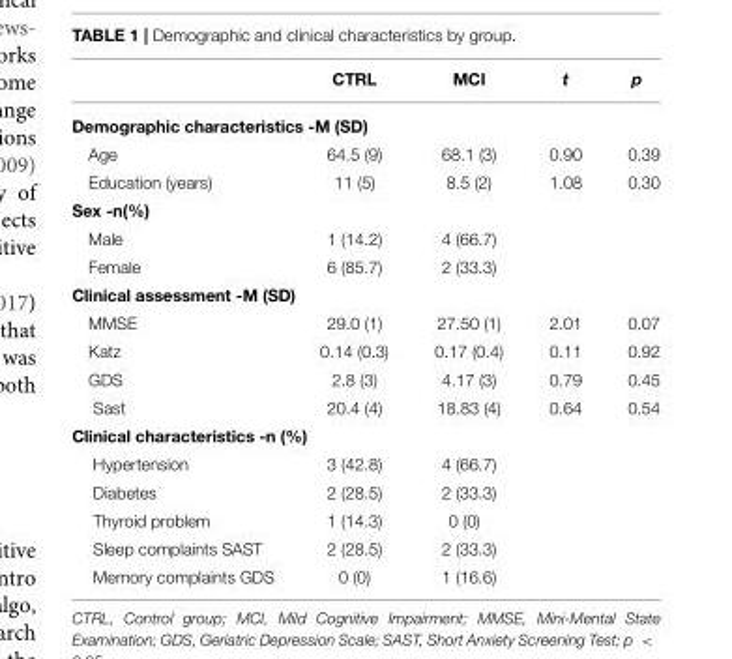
<table><thead><tr><td></td><td>CTRL</td><td>MCI</td><td>t</td><td>p</td></tr></thead><tbody><tr><td colspan="5">Demographic characteristics -M (SD)</td></tr><tr><td>Age</td><td>64.5 (9)</td><td>68.1 (3)</td><td>0.90</td><td>0.39</td></tr><tr><td>Education (years)</td><td>11 (5)</td><td>8.5 (2)</td><td>1.08</td><td>0.30</td></tr><tr><td colspan="5">Sex -n(%)</td></tr><tr><td>Male</td><td>1 (14.2)</td><td>4 (66.7)</td><td></td><td></td></tr><tr><td>Female</td><td>6 (85.7)</td><td>2 (33.3)</td><td></td><td></td></tr><tr><td colspan="5">Clinical assessment -M (SD)</td></tr><tr><td>MMSE</td><td>29.0 (1)</td><td>27.50 (1)</td><td>2.01</td><td>0.07</td></tr><tr><td>Katz</td><td>0.14 (0.3)</td><td>0.17 (0.4)</td><td>0.11</td><td>0.92</td></tr><tr><td>GDS</td><td>2.8 (3)</td><td>4.17 (3)</td><td>0.79</td><td>0.45</td></tr><tr><td>Sast</td><td>20.4 (4)</td><td>18.83 (4)</td><td>0.64</td><td>0.54</td></tr><tr><td colspan="5">Clinical characteristics -n (%)</td></tr><tr><td>Hypertension</td><td>3 (42.8)</td><td>4 (66.7)</td><td></td><td></td></tr><tr><td>Diabetes</td><td>2 (28.5)</td><td>2 (33.3)</td><td></td><td></td></tr><tr><td>Thyroid problem</td><td>1 (14.3)</td><td>0 (0)</td><td></td><td></td></tr><tr><td>Sleep complaints SAST</td><td>2 (28.5)</td><td>2 (33.3)</td><td></td><td></td></tr><tr><td>Memory complaints GDS</td><td>0 (0)</td><td>1 (16.6)</td><td></td><td></td></tr></tbody></table>